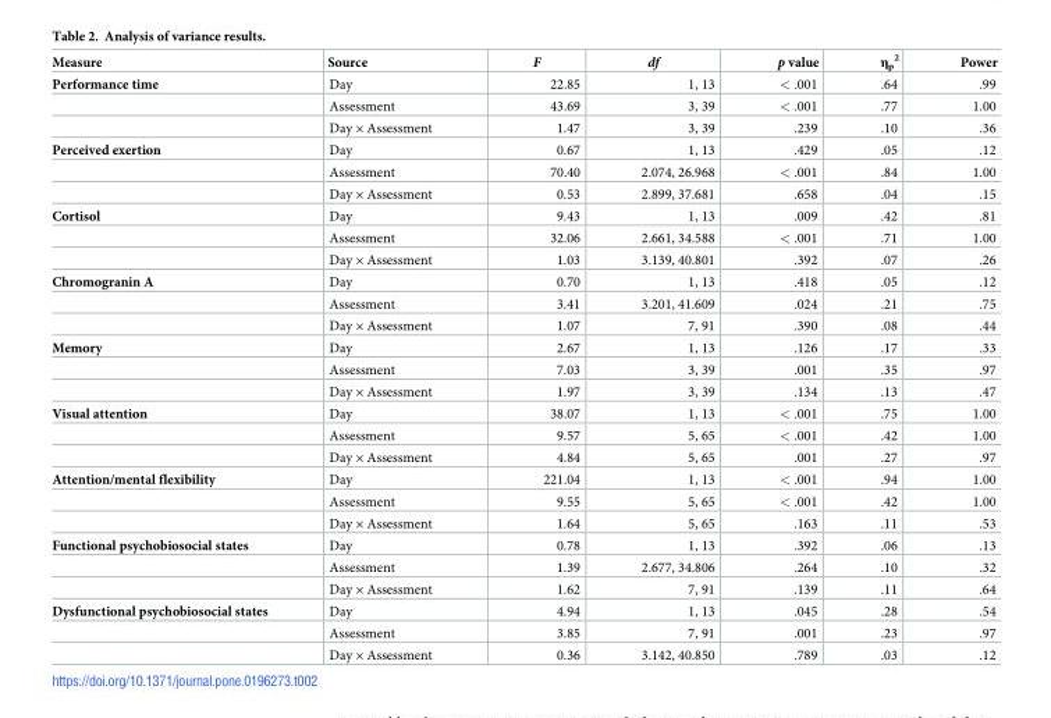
<table><thead><tr><td>Measure</td><td>Source</td><td>F</td><td>df</td><td>p value</td><td>ηp 2</td><td>Power</td></tr></thead><tbody><tr><td rowspan="3">Performance time</td><td>Day</td><td>22.85</td><td>1, 13</td><td>&lt; .001</td><td>.64</td><td>.99</td></tr><tr><td>Assessment</td><td>43.69</td><td>3, 39</td><td>&lt; .001</td><td>.77</td><td>1.00</td></tr><tr><td>Day × Assessment</td><td>1.47</td><td>3, 39</td><td>.239</td><td>.10</td><td>.36</td></tr><tr><td rowspan="3">Perceived exertion</td><td>Day</td><td>0.67</td><td>1, 13</td><td>.429</td><td>.05</td><td>.12</td></tr><tr><td>Assessment</td><td>70.40</td><td>2.074, 26.968</td><td>&lt; .001</td><td>.84</td><td>1.00</td></tr><tr><td>Day × Assessment</td><td>0.53</td><td>2.899, 37.681</td><td>.658</td><td>.04</td><td>.15</td></tr><tr><td rowspan="3">Cortisol</td><td>Day</td><td>9.43</td><td>1, 13</td><td>.009</td><td>.42</td><td>.81</td></tr><tr><td>Assessment</td><td>32.06</td><td>2.661, 34.588</td><td>&lt; .001</td><td>.71</td><td>1.00</td></tr><tr><td>Day × Assessment</td><td>1.03</td><td>3.139, 40.801</td><td>.392</td><td>.07</td><td>.26</td></tr><tr><td rowspan="3">Chromogranin A</td><td>Day</td><td>0.70</td><td>1, 13</td><td>.418</td><td>.05</td><td>.12</td></tr><tr><td>Assessment</td><td>3.41</td><td>3.201, 41.609</td><td>.024</td><td>.21</td><td>.75</td></tr><tr><td>Day × Assessment</td><td>1.07</td><td>7, 91</td><td>.390</td><td>.08</td><td>.44</td></tr><tr><td rowspan="3">Memory</td><td>Day</td><td>2.67</td><td>1, 13</td><td>.126</td><td>.17</td><td>.33</td></tr><tr><td>Assessment</td><td>7.03</td><td>3, 39</td><td>.001</td><td>.35</td><td>.97</td></tr><tr><td>Day × Assessment</td><td>1.97</td><td>3, 39</td><td>.134</td><td>.13</td><td>.47</td></tr><tr><td rowspan="3">Visual attention</td><td>Day</td><td>38.07</td><td>1, 13</td><td>&lt; .001</td><td>.75</td><td>1.00</td></tr><tr><td>Assessment</td><td>9.57</td><td>5, 65</td><td>&lt; .001</td><td>.42</td><td>1.00</td></tr><tr><td>Day × Assessment</td><td>4.84</td><td>5, 65</td><td>.001</td><td>.27</td><td>.97</td></tr><tr><td rowspan="3">Attention/mental flexibility</td><td>Day</td><td>221.04</td><td>1, 13</td><td>&lt; .001</td><td>.94</td><td>1.00</td></tr><tr><td>Assessment</td><td>9.55</td><td>5, 65</td><td>&lt; .001</td><td>.42</td><td>1.00</td></tr><tr><td>Day × Assessment</td><td>1.64</td><td>5, 65</td><td>.163</td><td>.11</td><td>.53</td></tr><tr><td rowspan="3">Functional psychobiosocial states</td><td>Day</td><td>0.78</td><td>1, 13</td><td>.392</td><td>.06</td><td>.13</td></tr><tr><td>Assessment</td><td>1.39</td><td>2.677, 34.806</td><td>.264</td><td>.10</td><td>.32</td></tr><tr><td>Day × Assessment</td><td>1.62</td><td>7, 91</td><td>.139</td><td>.11</td><td>.64</td></tr><tr><td rowspan="3">Dysfunctional psychobiosocial states</td><td>Day</td><td>4.94</td><td>1, 13</td><td>.045</td><td>.28</td><td>.54</td></tr><tr><td>Assessment</td><td>3.85</td><td>7, 91</td><td>.001</td><td>.23</td><td>.97</td></tr><tr><td>Day × Assessment</td><td>0.36</td><td>3.142, 40.850</td><td>.789</td><td>.03</td><td>.12</td></tr></tbody></table>